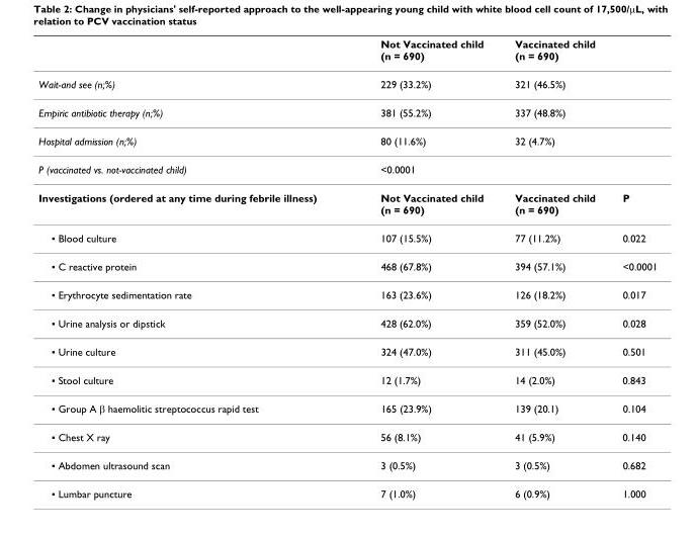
<table><thead><tr><td></td><td>Not Vaccinated child (n = 690)</td><td>Vaccinated child (n = 690)</td><td></td></tr></thead><tbody><tr><td>Wait-and see (n;%)</td><td>229 (33.2%)</td><td>321 (46.5%)</td><td></td></tr><tr><td>Empiric antibiotic therapy (n;%)</td><td>381 (55.2%)</td><td>337 (48.8%)</td><td></td></tr><tr><td>Hospital admission (n;%)</td><td>80 (11.6%)</td><td>32 (4.7%)</td><td></td></tr><tr><td>P (vaccinated vs. not-vaccinated child)</td><td colspan="2">&lt;0.0001</td><td></td></tr><tr><td>Investigations (ordered at any time during febrile illness)</td><td>Not Vaccinated child (n = 690)</td><td>Vaccinated child (n = 690)</td><td>P</td></tr><tr><td>▪ Blood culture</td><td>107 (15.5%)</td><td>77 (11.2%)</td><td>0.022</td></tr><tr><td>▪ C reactive protein</td><td>468 (67.8%)</td><td>394 (57.1%)</td><td>&lt;0.0001</td></tr><tr><td>▪ Erythrocyte sedimentation rate</td><td>163 (23.6%)</td><td>126 (18.2%)</td><td>0.017</td></tr><tr><td>▪ Urine analysis or dipstick</td><td>428 (62.0%)</td><td>359 (52.0%)</td><td>0.028</td></tr><tr><td>▪ Urine culture</td><td>324 (47.0%)</td><td>311 (45.0%)</td><td>0.501</td></tr><tr><td>▪ Stool culture</td><td>12 (1.7%)</td><td>14 (2.0%)</td><td>0.843</td></tr><tr><td>▪ Group A β haemolitic streptococcus rapid test</td><td>165 (23.9%)</td><td>139 (20.1)</td><td>0.104</td></tr><tr><td>▪ Chest X ray</td><td>56 (8.1%)</td><td>41 (5.9%)</td><td>0.140</td></tr><tr><td>▪ Abdomen ultrasound scan</td><td>3 (0.5%)</td><td>3 (0.5%)</td><td>0.682</td></tr><tr><td>▪ Lumbar puncture</td><td>7 (1.0%)</td><td>6 (0.9%)</td><td>1.000</td></tr></tbody></table>